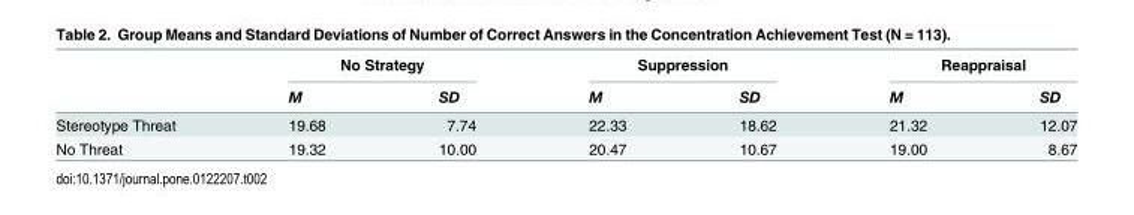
<table><thead><tr><td rowspan="2"></td><td colspan="2">No Strategy</td><td colspan="2">Suppression</td><td colspan="2">Reappraisal</td></tr><tr><td>M</td><td>SD</td><td>M</td><td>SD</td><td>M</td><td>SD</td></tr></thead><tbody><tr><td>Stereotype Threat</td><td>19.68</td><td>7.74</td><td>22.33</td><td>18.62</td><td>21.32</td><td>12.07</td></tr><tr><td>No Threat</td><td>19.32</td><td>10.00</td><td>20.47</td><td>10.67</td><td>19.00</td><td>8.67</td></tr></tbody></table>